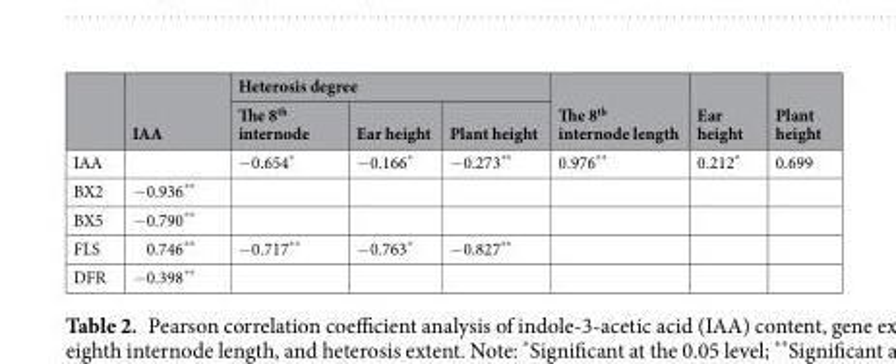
<table><thead><tr><td rowspan="2"></td><td rowspan="2">IAA</td><td colspan="3">Heterosis degree</td><td rowspan="2">The 8<sup>th</sup> internode length</td><td rowspan="2">Ear height</td><td rowspan="2">Plant height</td></tr><tr><td>The 8<sup>th</sup> internode</td><td>Ear height</td><td>Plant height</td></tr></thead><tbody><tr><td>IAA</td><td></td><td>−0.654*</td><td>−0.166*</td><td>−0.273**</td><td>0.976**</td><td>0.212*</td><td>0.699</td></tr><tr><td>BX2</td><td>−0.936**</td><td></td><td></td><td></td><td></td><td></td><td></td></tr><tr><td>BX5</td><td>−0.790**</td><td></td><td></td><td></td><td></td><td></td><td></td></tr><tr><td>FLS</td><td>0.746**</td><td>−0.717**</td><td>−0.763*</td><td>−0.827**</td><td></td><td></td><td></td></tr><tr><td>DFR</td><td>−0.398**</td><td></td><td></td><td></td><td></td><td></td><td></td></tr></tbody></table>